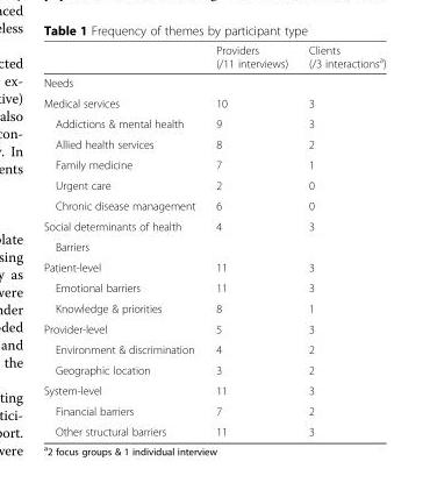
<table><thead><tr><td></td><td>Providers (/11 interviews)</td><td>Clients (/3 interactions<sup>a</sup>)</td></tr></thead><tbody><tr><td colspan="3">Needs</td></tr><tr><td>Medical services</td><td>10</td><td>3</td></tr><tr><td>Addictions &amp; mental health</td><td>9</td><td>3</td></tr><tr><td>Allied health services</td><td>8</td><td>2</td></tr><tr><td>Family medicine</td><td>7</td><td>1</td></tr><tr><td>Urgent care</td><td>2</td><td>0</td></tr><tr><td>Chronic disease management</td><td>6</td><td>0</td></tr><tr><td>Social determinants of health</td><td>4</td><td>3</td></tr><tr><td colspan="3">Barriers</td></tr><tr><td>Patient-level</td><td>11</td><td>3</td></tr><tr><td>Emotional barriers</td><td>11</td><td>3</td></tr><tr><td>Knowledge &amp; priorities</td><td>8</td><td>1</td></tr><tr><td>Provider-level</td><td>5</td><td>3</td></tr><tr><td>Environment &amp; discrimination</td><td>4</td><td>2</td></tr><tr><td>Geographic location</td><td>3</td><td>2</td></tr><tr><td>System-level</td><td>11</td><td>3</td></tr><tr><td>Financial barriers</td><td>7</td><td>2</td></tr><tr><td>Other structural barriers</td><td>11</td><td>3</td></tr></tbody></table>